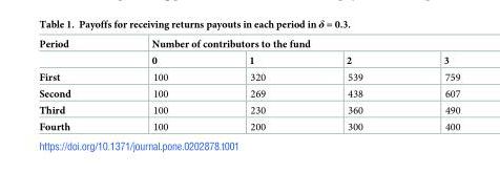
<table><thead><tr><td rowspan="2">Period</td><td colspan="4">Number of contributors to the fund</td></tr><tr><td>0</td><td>1</td><td>2</td><td>3</td></tr></thead><tbody><tr><td>First</td><td>100</td><td>320</td><td>539</td><td>759</td></tr><tr><td>Second</td><td>100</td><td>269</td><td>438</td><td>607</td></tr><tr><td>Third</td><td>100</td><td>230</td><td>360</td><td>490</td></tr><tr><td>Fourth</td><td>100</td><td>200</td><td>300</td><td>400</td></tr></tbody></table>